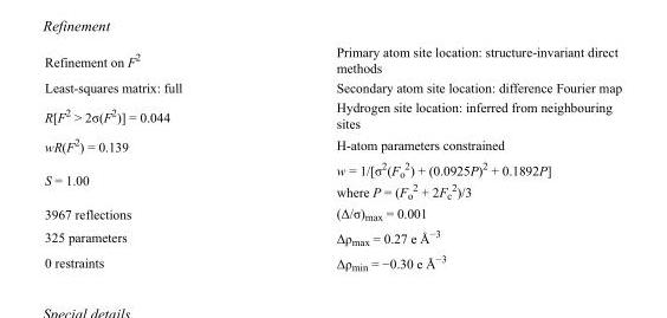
<table><tbody><tr><td>Refinement on F<sup>2</sup></td><td>Primary atom site location: structure-invariant direct methods</td></tr><tr><td>Least-squares matrix: full</td><td>Secondary atom site location: difference Fourier map</td></tr><tr><td>R[F<sup>2</sup> &gt; 2σ(F<sup>2</sup>)] = 0.044</td><td>Hydrogen site location: inferred from neighbouring sites</td></tr><tr><td>wR(F<sup>2</sup>) = 0.139</td><td>H-atom parameters constrained</td></tr><tr><td>S = 1.00</td><td>w = 1/[σ<sup>2</sup>(F<sub>o</sub> <sup>2</sup>) + (0.0925P)<sup>2</sup> + 0.1892P] where P = (F<sub>o</sub> <sup>2</sup> + 2F<sub>c</sub> <sup>2</sup>)/3</td></tr><tr><td>3967 reflections</td><td>(Δ/σ)<sub>max</sub> = 0.001</td></tr><tr><td>325 parameters</td><td>Δρ<sub>max</sub> = 0.27 e Å<sup>−3</sup></td></tr><tr><td>0 restraints</td><td>Δρ<sub>min</sub> = −0.30 e Å<sup>−3</sup></td></tr></tbody></table>